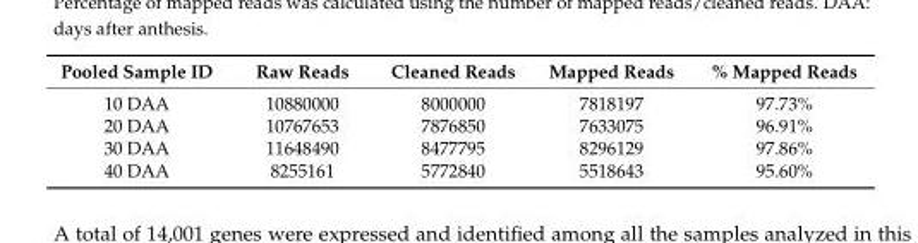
<table><thead><tr><td>Pooled Sample ID</td><td>Raw Reads</td><td>Cleaned Reads</td><td>Mapped Reads</td><td>% Mapped Reads</td></tr></thead><tbody><tr><td>10 DAA</td><td>10880000</td><td>8000000</td><td>7818197</td><td>97.73%</td></tr><tr><td>20 DAA</td><td>10767653</td><td>7876850</td><td>7633075</td><td>96.91%</td></tr><tr><td>30 DAA</td><td>11648490</td><td>8477795</td><td>8296129</td><td>97.86%</td></tr><tr><td>40 DAA</td><td>8255161</td><td>5772840</td><td>5518643</td><td>95.60%</td></tr></tbody></table>